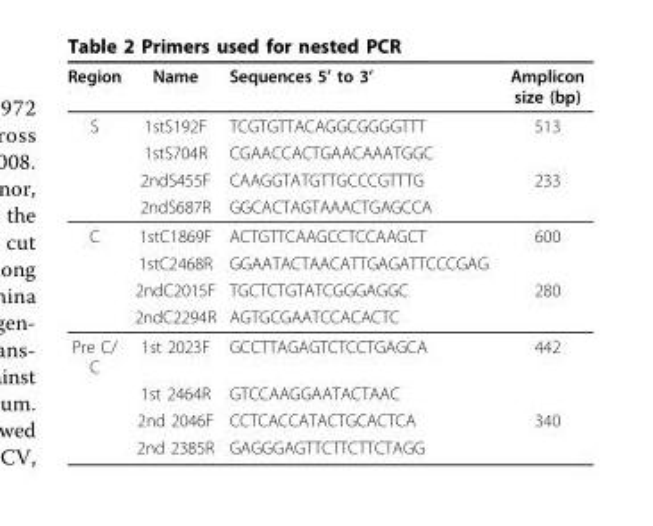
<table><thead><tr><td>Region</td><td>Name</td><td>Sequences 5’ to 3’</td><td>Amplicon size (bp)</td></tr></thead><tbody><tr><td rowspan="4">S</td><td>1stS192F</td><td>TCGTGTTACAGGCGGGGTTT</td><td>513</td></tr><tr><td>1stS704R</td><td>CGAACCACTGAACAAATGGC</td><td></td></tr><tr><td>2ndS455F</td><td>CAAGGTATGTTGCCCGTTTG</td><td>233</td></tr><tr><td>2ndS687R</td><td>GGCACTAGTAAACTGAGCCA</td><td></td></tr><tr><td rowspan="4">C</td><td>1stC1869F</td><td>ACTGTTCAAGCCTCCAAGCT</td><td>600</td></tr><tr><td>1stC2468R</td><td>GGAATACTAACATTGAGATTCCCGAG</td><td></td></tr><tr><td>2ndC2015F</td><td>TGCTCTGTATCGGGAGGC</td><td>280</td></tr><tr><td>2ndC2294R</td><td>AGTGCGAATCCACACTC</td><td></td></tr><tr><td rowspan="4">Pre C/ C</td><td>1st 2023F</td><td>GCCTTAGAGTCTCCTGAGCA</td><td>442</td></tr><tr><td>1st 2464R</td><td>GTCCAAGGAATACTAAC</td><td></td></tr><tr><td>2nd 2046F</td><td>CCTCACCATACTGCACTCA</td><td>340</td></tr><tr><td>2nd 2385R</td><td>GAGGGAGTTCTTCTTCTAGG</td><td></td></tr></tbody></table>